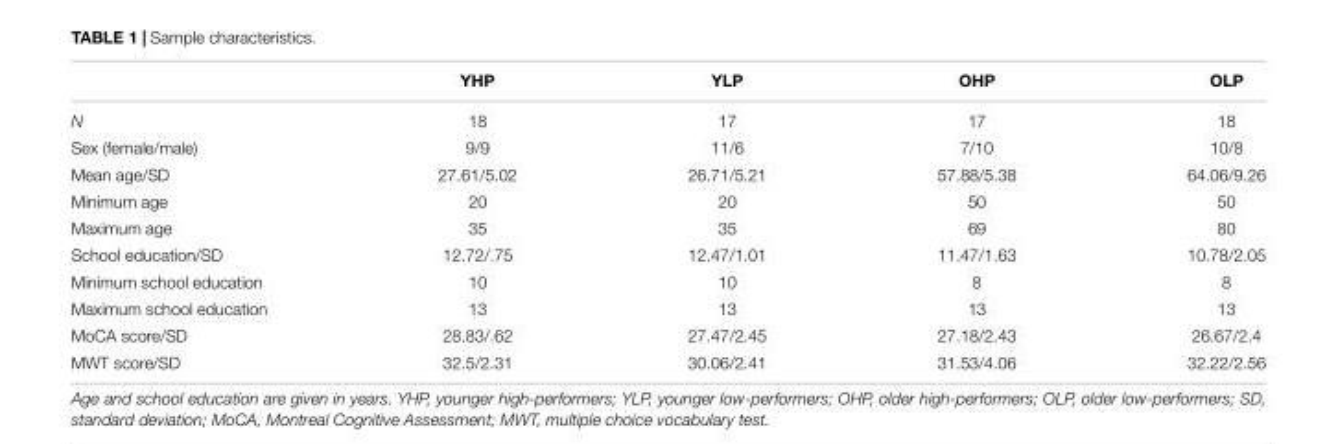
<table><thead><tr><td></td><td>YHP</td><td>YLP</td><td>OHP</td><td>OLP</td></tr></thead><tbody><tr><td>N</td><td>18</td><td>17</td><td>17</td><td>18</td></tr><tr><td>Sex (female/male)</td><td>9/9</td><td>11/6</td><td>7/10</td><td>10/8</td></tr><tr><td>Mean age/SD</td><td>27.61/5.02</td><td>26.71/5.21</td><td>57.88/5.38</td><td>64.06/9.26</td></tr><tr><td>Minimum age</td><td>20</td><td>20</td><td>50</td><td>50</td></tr><tr><td>Maximum age</td><td>35</td><td>35</td><td>69</td><td>80</td></tr><tr><td>School education/SD</td><td>12.72/.75</td><td>12.47/1.01</td><td>11.47/1.63</td><td>10.78/2.05</td></tr><tr><td>Minimum school education</td><td>10</td><td>10</td><td>8</td><td>8</td></tr><tr><td>Maximum school education</td><td>13</td><td>13</td><td>13</td><td>13</td></tr><tr><td>MoCA score/SD</td><td>28.83/.62</td><td>27.47/2.45</td><td>27.18/2.43</td><td>26.67/2.4</td></tr><tr><td>MWT score/SD</td><td>32.5/2.31</td><td>30.06/2.41</td><td>31.53/4.06</td><td>32.22/2.56</td></tr></tbody></table>